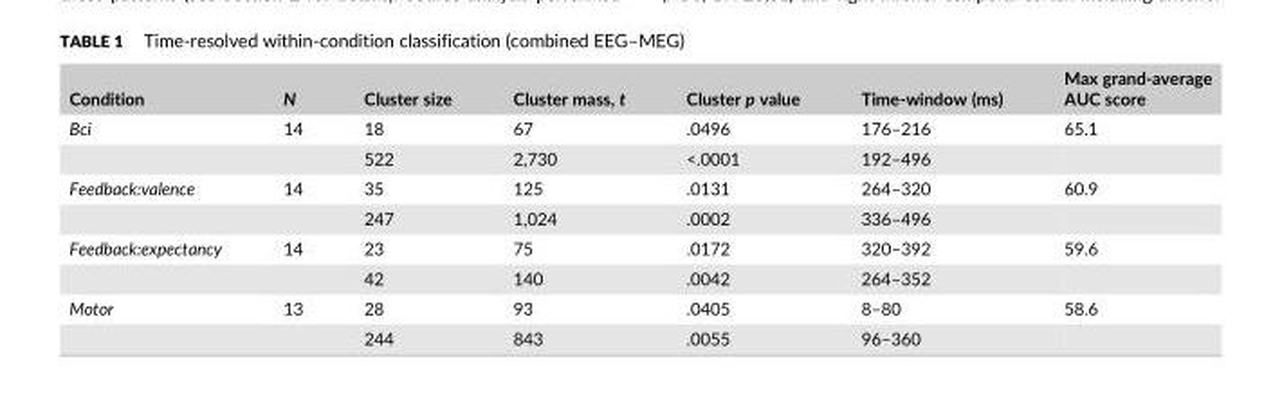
<table><thead><tr><td>Condition</td><td>N</td><td>Cluster size</td><td>Cluster mass, t</td><td>Cluster p value</td><td>Time-window (ms)</td><td>Max grand-average AUC score</td></tr></thead><tbody><tr><td rowspan="2">Bci</td><td rowspan="2">14</td><td>18</td><td>67</td><td>.0496</td><td>176–216</td><td rowspan="2">65.1</td></tr><tr><td>522</td><td>2,730</td><td>&lt;.0001</td><td>192–496</td></tr><tr><td rowspan="2">Feedback:valence</td><td rowspan="2">14</td><td>35</td><td>125</td><td>.0131</td><td>264–320</td><td rowspan="2">60.9</td></tr><tr><td>247</td><td>1,024</td><td>.0002</td><td>336–496</td></tr><tr><td rowspan="2">Feedback:expectancy</td><td rowspan="2">14</td><td>23</td><td>75</td><td>.0172</td><td>320–392</td><td rowspan="2">59.6</td></tr><tr><td>42</td><td>140</td><td>.0042</td><td>264–352</td></tr><tr><td rowspan="2">Motor</td><td rowspan="2">13</td><td>28</td><td>93</td><td>.0405</td><td>8–80</td><td rowspan="2">58.6</td></tr><tr><td>244</td><td>843</td><td>.0055</td><td>96–360</td></tr></tbody></table>